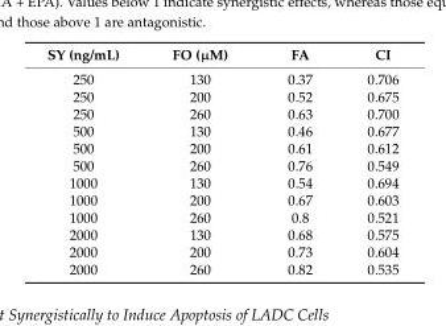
<table><thead><tr><td>SY (ng/mL)</td><td>FO (µM)</td><td>FA</td><td>CI</td></tr></thead><tbody><tr><td>250</td><td>130</td><td>0.37</td><td>0.706</td></tr><tr><td>250</td><td>200</td><td>0.52</td><td>0.675</td></tr><tr><td>250</td><td>260</td><td>0.63</td><td>0.700</td></tr><tr><td>500</td><td>130</td><td>0.46</td><td>0.677</td></tr><tr><td>500</td><td>200</td><td>0.61</td><td>0.612</td></tr><tr><td>500</td><td>260</td><td>0.76</td><td>0.549</td></tr><tr><td>1000</td><td>130</td><td>0.54</td><td>0.694</td></tr><tr><td>1000</td><td>200</td><td>0.67</td><td>0.603</td></tr><tr><td>1000</td><td>260</td><td>0.8</td><td>0.521</td></tr><tr><td>2000</td><td>130</td><td>0.68</td><td>0.575</td></tr><tr><td>2000</td><td>200</td><td>0.73</td><td>0.604</td></tr><tr><td>2000</td><td>260</td><td>0.82</td><td>0.535</td></tr></tbody></table>